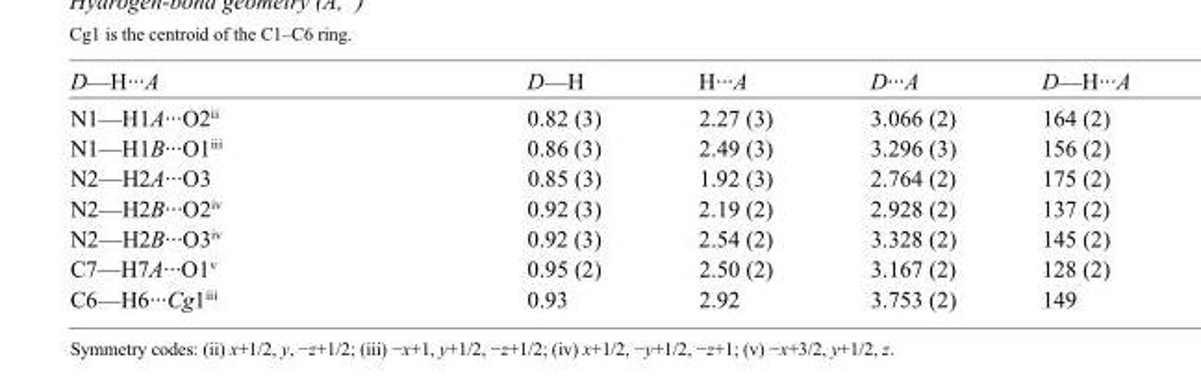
<table><tbody><tr><td>D—H···A</td><td>D—H</td><td>H···A</td><td>D···A</td><td>D—H···A</td></tr><tr><td>N1—H1A···O2<sup>ii</sup></td><td>0.82 (3)</td><td>2.27 (3)</td><td>3.066 (2)</td><td>164 (2)</td></tr><tr><td>N1—H1B···O1<sup>iii</sup></td><td>0.86 (3)</td><td>2.49 (3)</td><td>3.296 (3)</td><td>156 (2)</td></tr><tr><td>N2—H2A···O3</td><td>0.85 (3)</td><td>1.92 (3)</td><td>2.764 (2)</td><td>175 (2)</td></tr><tr><td>N2—H2B···O2<sup>iv</sup></td><td>0.92 (3)</td><td>2.19 (2)</td><td>2.928 (2)</td><td>137 (2)</td></tr><tr><td>N2—H2B···O3<sup>iv</sup></td><td>0.92 (3)</td><td>2.54 (2)</td><td>3.328 (2)</td><td>145 (2)</td></tr><tr><td>C7—H7A···O1<sup>v</sup></td><td>0.95 (2)</td><td>2.50 (2)</td><td>3.167 (2)</td><td>128 (2)</td></tr><tr><td>C6—H6···Cg1<sup>iii</sup></td><td>0.93</td><td>2.92</td><td>3.753 (2)</td><td>149</td></tr></tbody></table>